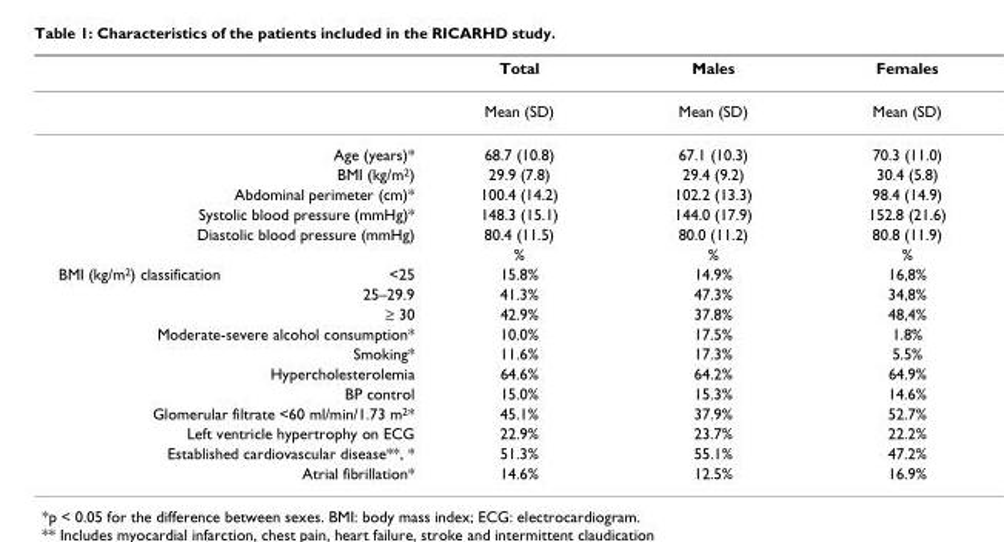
<table><thead><tr><td></td><td></td><td>Total</td><td>Males</td><td>Females</td></tr></thead><tbody><tr><td></td><td></td><td>Mean (SD)</td><td>Mean (SD)</td><td>Mean (SD)</td></tr><tr><td colspan="2">Age (years)*</td><td>68.7 (10.8)</td><td>67.1 (10.3)</td><td>70.3 (11.0)</td></tr><tr><td colspan="2">BMI (kg/m<sup>2</sup>)</td><td>29.9 (7.8)</td><td>29.4 (9.2)</td><td>30.4 (5.8)</td></tr><tr><td colspan="2">Abdominal perimeter (cm)*</td><td>100.4 (14.2)</td><td>102.2 (13.3)</td><td>98.4 (14.9)</td></tr><tr><td colspan="2">Systolic blood pressure (mmHg)*</td><td>148.3 (15.1)</td><td>144.0 (17.9)</td><td>152.8 (21.6)</td></tr><tr><td colspan="2">Diastolic blood pressure (mmHg)</td><td>80.4 (11.5)</td><td>80.0 (11.2)</td><td>80.8 (11.9)</td></tr><tr><td></td><td></td><td>%</td><td>%</td><td>%</td></tr><tr><td rowspan="3">BMI (kg/m<sup>2</sup>) classification</td><td>&lt;25</td><td>15.8%</td><td>14.9%</td><td>16,8%</td></tr><tr><td>25–29.9</td><td>41.3%</td><td>47.3%</td><td>34,8%</td></tr><tr><td>≥ 30</td><td>42.9%</td><td>37.8%</td><td>48,4%</td></tr><tr><td colspan="2">Moderate-severe alcohol consumption*</td><td>10.0%</td><td>17.5%</td><td>1.8%</td></tr><tr><td colspan="2">Smoking*</td><td>11.6%</td><td>17.3%</td><td>5.5%</td></tr><tr><td colspan="2">Hypercholesterolemia</td><td>64.6%</td><td>64.2%</td><td>64.9%</td></tr><tr><td colspan="2">BP control</td><td>15.0%</td><td>15.3%</td><td>14.6%</td></tr><tr><td colspan="2">Glomerular filtrate &lt;60 ml/min/1.73 m<sup>2</sup>*</td><td>45.1%</td><td>37.9%</td><td>52.7%</td></tr><tr><td colspan="2">Left ventricle hypertrophy on ECG</td><td>22.9%</td><td>23.7%</td><td>22.2%</td></tr><tr><td colspan="2">Established cardiovascular disease**, *</td><td>51.3%</td><td>55.1%</td><td>47.2%</td></tr><tr><td colspan="2">Atrial fibrillation*</td><td>14.6%</td><td>12.5%</td><td>16.9%</td></tr></tbody></table>